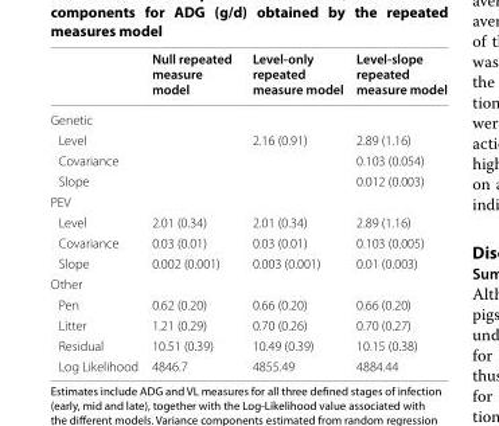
<table><thead><tr><td></td><td>Null repeated measure model</td><td>Level-only repeated measure model</td><td>Level-slope repeated measure model</td></tr></thead><tbody><tr><td colspan="4">Genetic</td></tr><tr><td>Level</td><td></td><td>2.16 (0.91)</td><td>2.89 (1.16)</td></tr><tr><td>Covariance</td><td></td><td></td><td>0.103 (0.054)</td></tr><tr><td>Slope</td><td></td><td></td><td>0.012 (0.003)</td></tr><tr><td colspan="4">PEV</td></tr><tr><td>Level</td><td>2.01 (0.34)</td><td>2.01 (0.34)</td><td>2.89 (1.16)</td></tr><tr><td>Covariance</td><td>0.03 (0.01)</td><td>0.03 (0.01)</td><td>0.103 (0.005)</td></tr><tr><td>Slope</td><td>0.002 (0.001)</td><td>0.003 (0.001)</td><td>0.01 (0.003)</td></tr><tr><td colspan="4">Other</td></tr><tr><td>Pen</td><td>0.62 (0.20)</td><td>0.66 (0.20)</td><td>0.66 (0.20)</td></tr><tr><td>Litter</td><td>1.21 (0.29)</td><td>0.70 (0.26)</td><td>0.70 (0.27)</td></tr><tr><td>Residual</td><td>10.51 (0.39)</td><td>10.49 (0.39)</td><td>10.15 (0.38)</td></tr><tr><td>Log Likelihood</td><td>4846.7</td><td>4855.49</td><td>4884.44</td></tr></tbody></table>